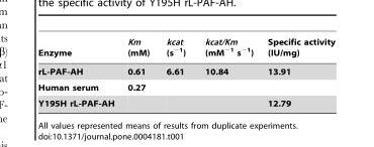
<table><thead><tr><td>Enzyme</td><td>Km (mM)</td><td>kcat (s<sup>−1</sup>)</td><td>kcat/Km (mM<sup>−1</sup> s<sup>−1</sup>)</td><td>Specific activity (IU/mg)</td></tr></thead><tbody><tr><td>rL-PAF-AH</td><td>0.61</td><td>6.61</td><td>10.84</td><td>13.91</td></tr><tr><td>Human serum</td><td>0.27</td><td></td><td></td><td></td></tr><tr><td>Y195H rL-PAF-AH</td><td></td><td></td><td></td><td>12.79</td></tr></tbody></table>